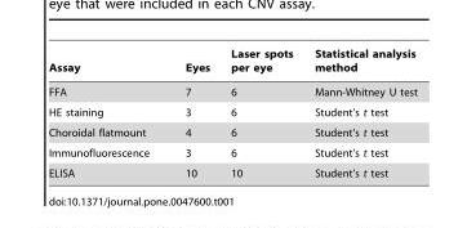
<table><thead><tr><td>Assay</td><td>Eyes</td><td>Laser spots per eye</td><td>Statistical analysis method</td></tr></thead><tbody><tr><td>FFA</td><td>7</td><td>6</td><td>Mann-Whitney U test</td></tr><tr><td>HE staining</td><td>3</td><td>6</td><td>Student’s t test</td></tr><tr><td>Choroidal flatmount</td><td>4</td><td>6</td><td>Student’s t test</td></tr><tr><td>Immunofluorescence</td><td>3</td><td>6</td><td>Student’s t test</td></tr><tr><td>ELISA</td><td>10</td><td>10</td><td>Student’s t test</td></tr></tbody></table>